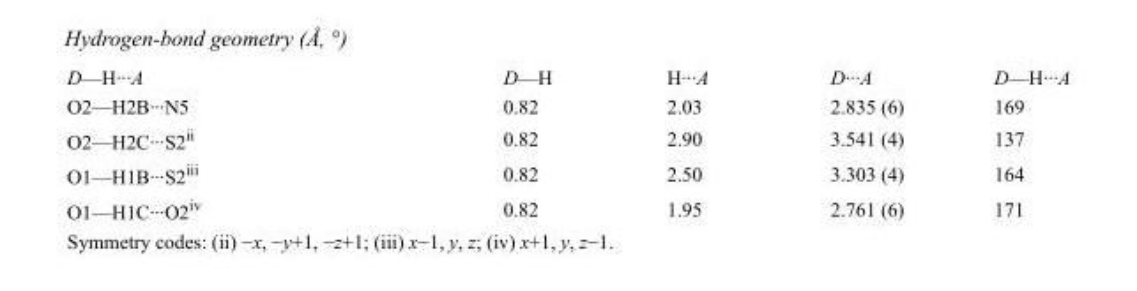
<table><tbody><tr><td>D—H···A</td><td>D—H</td><td>H···A</td><td>D···A</td><td>D—H···A</td></tr><tr><td>O2—H2B···N5</td><td>0.82</td><td>2.03</td><td>2.835 (6)</td><td>169</td></tr><tr><td>O2—H2C···S2<sup>ii</sup></td><td>0.82</td><td>2.90</td><td>3.541 (4)</td><td>137</td></tr><tr><td>O1—H1B···S2<sup>iii</sup></td><td>0.82</td><td>2.50</td><td>3.303 (4)</td><td>164</td></tr><tr><td>O1—H1C···O2<sup>iv</sup></td><td>0.82</td><td>1.95</td><td>2.761 (6)</td><td>171</td></tr></tbody></table>